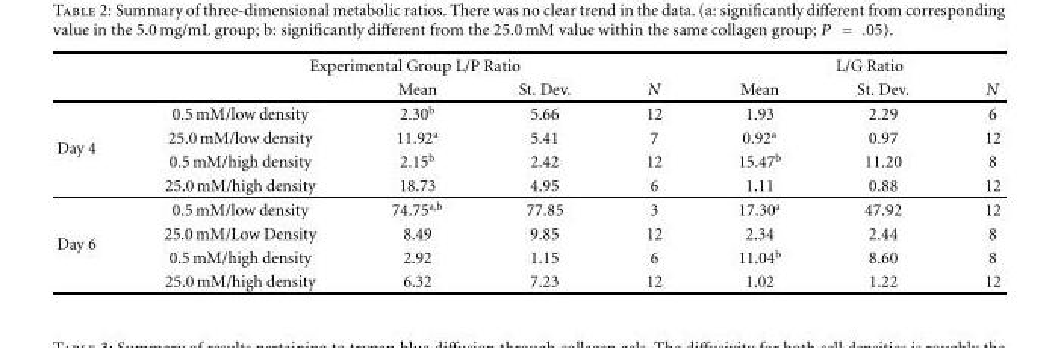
<table><thead><tr><td rowspan="2"></td><td colspan="4">Experimental Group L/P Ratio</td><td colspan="3">L/G Ratio</td></tr><tr><td></td><td>Mean</td><td>St. Dev.</td><td>N</td><td>Mean</td><td>St. Dev.</td><td>N</td></tr></thead><tbody><tr><td rowspan="4">Day 4</td><td>0.5 mM/low density</td><td>2.30<sup>b</sup></td><td>5.66</td><td>12</td><td>1.93</td><td>2.29</td><td>6</td></tr><tr><td>25.0 mM/low density</td><td>11.92<sup>a</sup></td><td>5.41</td><td>7</td><td>0.92<sup>a</sup></td><td>0.97</td><td>12</td></tr><tr><td>0.5 mM/high density</td><td>2.15<sup>b</sup></td><td>2.42</td><td>12</td><td>15.47<sup>b</sup></td><td>11.20</td><td>8</td></tr><tr><td>25.0 mM/high density</td><td>18.73</td><td>4.95</td><td>6</td><td>1.11</td><td>0.88</td><td>12</td></tr><tr><td rowspan="4">Day 6</td><td>0.5 mM/low density</td><td>74.75<sup>a,b</sup></td><td>77.85</td><td>3</td><td>17.30<sup>a</sup></td><td>47.92</td><td>12</td></tr><tr><td>25.0 mM/Low Density</td><td>8.49</td><td>9.85</td><td>12</td><td>2.34</td><td>2.44</td><td>8</td></tr><tr><td>0.5 mM/high density</td><td>2.92</td><td>1.15</td><td>6</td><td>11.04<sup>b</sup></td><td>8.60</td><td>8</td></tr><tr><td>25.0 mM/high density</td><td>6.32</td><td>7.23</td><td>12</td><td>1.02</td><td>1.22</td><td>12</td></tr></tbody></table>